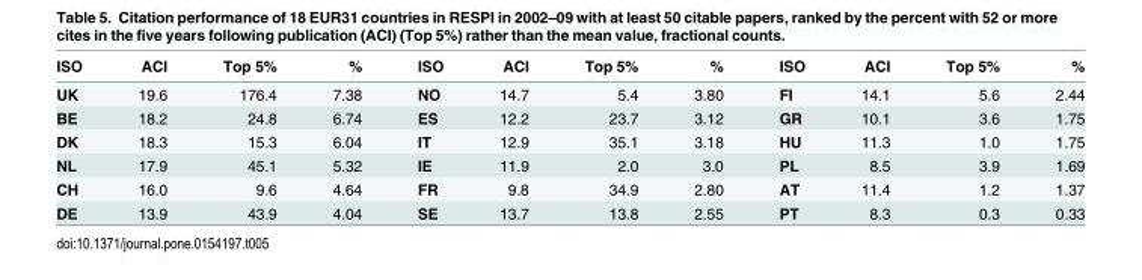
<table><thead><tr><td>ISO</td><td>ACI</td><td>Top 5%</td><td>%</td><td>ISO</td><td>ACI</td><td>Top 5%</td><td>%</td><td>ISO</td><td>ACI</td><td>Top 5%</td><td>%</td></tr></thead><tbody><tr><td>UK</td><td>19.6</td><td>176.4</td><td>7.38</td><td>NO</td><td>14.7</td><td>5.4</td><td>3.80</td><td>FI</td><td>14.1</td><td>5.6</td><td>2.44</td></tr><tr><td>BE</td><td>18.2</td><td>24.8</td><td>6.74</td><td>ES</td><td>12.2</td><td>23.7</td><td>3.12</td><td>GR</td><td>10.1</td><td>3.6</td><td>1.75</td></tr><tr><td>DK</td><td>18.3</td><td>15.3</td><td>6.04</td><td>IT</td><td>12.9</td><td>35.1</td><td>3.18</td><td>HU</td><td>11.3</td><td>1.0</td><td>1.75</td></tr><tr><td>NL</td><td>17.9</td><td>45.1</td><td>5.32</td><td>IE</td><td>11.9</td><td>2.0</td><td>3.0</td><td>PL</td><td>8.5</td><td>3.9</td><td>1.69</td></tr><tr><td>CH</td><td>16.0</td><td>9.6</td><td>4.64</td><td>FR</td><td>9.8</td><td>34.9</td><td>2.80</td><td>AT</td><td>11.4</td><td>1.2</td><td>1.37</td></tr><tr><td>DE</td><td>13.9</td><td>43.9</td><td>4.04</td><td>SE</td><td>13.7</td><td>13.8</td><td>2.55</td><td>PT</td><td>8.3</td><td>0.3</td><td>0.33</td></tr></tbody></table>